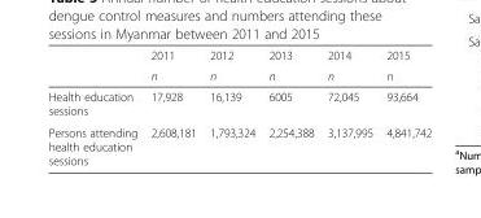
<table><thead><tr><td rowspan="2"></td><td rowspan="2">2011 n</td><td rowspan="2">2012 n</td><td rowspan="2">2013 n</td><td rowspan="2">2014 n</td><td rowspan="2">2015 n</td></tr><tr></tr></thead><tbody><tr><td>Health education sessions</td><td>17,928</td><td>16,139</td><td>6005</td><td>72,045</td><td>93,664</td></tr><tr><td>Persons attending health education sessions</td><td>2,608,181</td><td>1,793,324</td><td>2,254,388</td><td>3,137,995</td><td>4,841,742</td></tr></tbody></table>